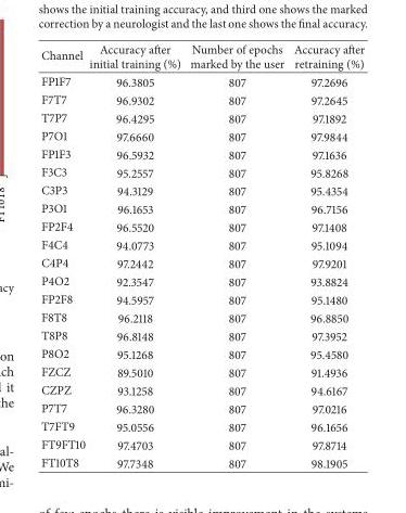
<table><thead><tr><td>Channel</td><td>Accuracy after initial training (%)</td><td>Number of epochs marked by the user</td><td>Accuracy after retraining (%)</td></tr></thead><tbody><tr><td>FP1F7</td><td>96.3805</td><td>807</td><td>97.2696</td></tr><tr><td>F7T7</td><td>96.9302</td><td>807</td><td>97.2645</td></tr><tr><td>T7P7</td><td>96.4295</td><td>807</td><td>97.1892</td></tr><tr><td>P7O1</td><td>97.6660</td><td>807</td><td>97.9844</td></tr><tr><td>FP1F3</td><td>96.5932</td><td>807</td><td>97.1636</td></tr><tr><td>F3C3</td><td>95.2557</td><td>807</td><td>95.8268</td></tr><tr><td>C3P3</td><td>94.3129</td><td>807</td><td>95.4354</td></tr><tr><td>P3O1</td><td>96.1653</td><td>807</td><td>96.7156</td></tr><tr><td>FP2F4</td><td>96.5520</td><td>807</td><td>97.1408</td></tr><tr><td>F4C4</td><td>94.0773</td><td>807</td><td>95.1094</td></tr><tr><td>C4P4</td><td>97.2442</td><td>807</td><td>97.9201</td></tr><tr><td>P4O2</td><td>92.3547</td><td>807</td><td>93.8824</td></tr><tr><td>FP2F8</td><td>94.5957</td><td>807</td><td>95.1480</td></tr><tr><td>F8T8</td><td>96.2118</td><td>807</td><td>96.8850</td></tr><tr><td>T8P8</td><td>96.8148</td><td>807</td><td>97.3952</td></tr><tr><td>P8O2</td><td>95.1268</td><td>807</td><td>95.4580</td></tr><tr><td>FZCZ</td><td>89.5010</td><td>807</td><td>91.4936</td></tr><tr><td>CZPZ</td><td>93.1258</td><td>807</td><td>94.6167</td></tr><tr><td>P7T7</td><td>96.3280</td><td>807</td><td>97.0216</td></tr><tr><td>T7FT9</td><td>95.0556</td><td>807</td><td>96.1656</td></tr><tr><td>FT9FT10</td><td>97.4703</td><td>807</td><td>97.8714</td></tr><tr><td>FT10T8</td><td>97.7348</td><td>807</td><td>98.1905</td></tr></tbody></table>